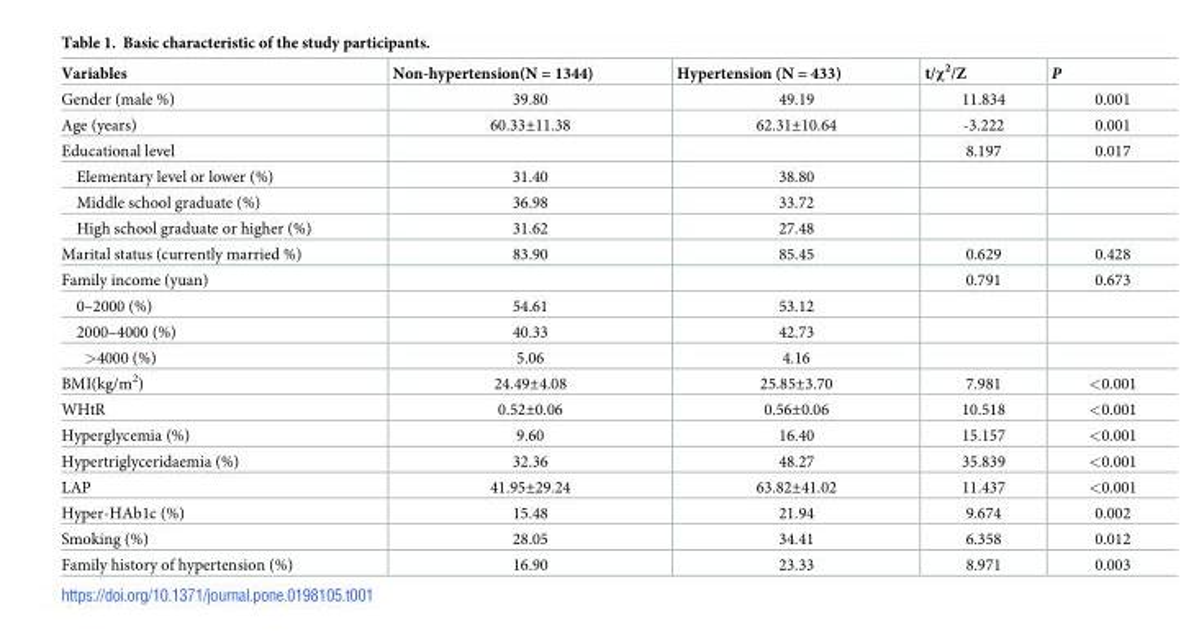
<table><thead><tr><td>Variables</td><td>Non-hypertension(N = 1344)</td><td>Hypertension (N = 433)</td><td>t/χ<sup>2</sup>/Z</td><td>P</td></tr></thead><tbody><tr><td>Gender (male %)</td><td>39.80</td><td>49.19</td><td>11.834</td><td>0.001</td></tr><tr><td>Age (years)</td><td>60.33±11.38</td><td>62.31±10.64</td><td>-3.222</td><td>0.001</td></tr><tr><td>Educational level</td><td></td><td></td><td>8.197</td><td>0.017</td></tr><tr><td>Elementary level or lower (%)</td><td>31.40</td><td>38.80</td><td></td><td></td></tr><tr><td>Middle school graduate (%)</td><td>36.98</td><td>33.72</td><td></td><td></td></tr><tr><td>High school graduate or higher (%)</td><td>31.62</td><td>27.48</td><td></td><td></td></tr><tr><td>Marital status (currently married %)</td><td>83.90</td><td>85.45</td><td>0.629</td><td>0.428</td></tr><tr><td>Family income (yuan)</td><td></td><td></td><td>0.791</td><td>0.673</td></tr><tr><td>0–2000 (%)</td><td>54.61</td><td>53.12</td><td></td><td></td></tr><tr><td>2000–4000 (%)</td><td>40.33</td><td>42.73</td><td></td><td></td></tr><tr><td>&gt;4000 (%)</td><td>5.06</td><td>4.16</td><td></td><td></td></tr><tr><td>BMI(kg/m<sup>2</sup>)</td><td>24.49±4.08</td><td>25.85±3.70</td><td>7.981</td><td>&lt;0.001</td></tr><tr><td>WHtR</td><td>0.52±0.06</td><td>0.56±0.06</td><td>10.518</td><td>&lt;0.001</td></tr><tr><td>Hyperglycemia (%)</td><td>9.60</td><td>16.40</td><td>15.157</td><td>&lt;0.001</td></tr><tr><td>Hypertriglyceridaemia (%)</td><td>32.36</td><td>48.27</td><td>35.839</td><td>&lt;0.001</td></tr><tr><td>LAP</td><td>41.95±29.24</td><td>63.82±41.02</td><td>11.437</td><td>&lt;0.001</td></tr><tr><td>Hyper-HAb1c (%)</td><td>15.48</td><td>21.94</td><td>9.674</td><td>0.002</td></tr><tr><td>Smoking (%)</td><td>28.05</td><td>34.41</td><td>6.358</td><td>0.012</td></tr><tr><td>Family history of hypertension (%)</td><td>16.90</td><td>23.33</td><td>8.971</td><td>0.003</td></tr></tbody></table>